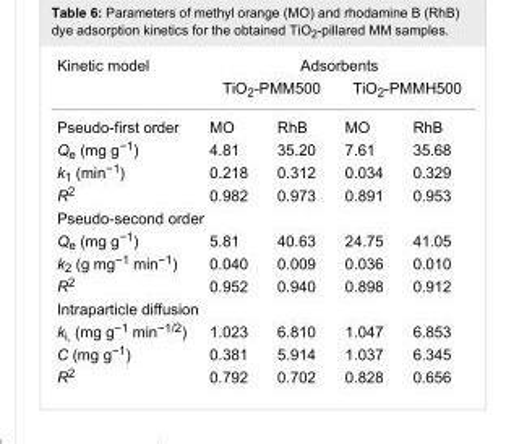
<table><tbody><tr><td rowspan="2">Kinetic model</td><td colspan="4">Adsorbents</td></tr><tr><td colspan="2">TiO<sub>2</sub>-PMM500</td><td colspan="2">TiO<sub>2</sub>-PMMН500</td></tr><tr><td>Pseudo-first order</td><td>MO</td><td>RhB</td><td>MO</td><td>RhB</td></tr><tr><td>Q<sub>e</sub> (mg g<sup>−1</sup>)</td><td>4.81</td><td>35.20</td><td>7.61</td><td>35.68</td></tr><tr><td>k<sub>1</sub> (min<sup>−1</sup>)</td><td>0.218</td><td>0.312</td><td>0.034</td><td>0.329</td></tr><tr><td>R<sup>2</sup></td><td>0.982</td><td>0.973</td><td>0.891</td><td>0.953</td></tr><tr><td colspan="5">Pseudo-second order</td></tr><tr><td>Q<sub>e</sub> (mg g<sup>−1</sup>)</td><td>5.81</td><td>40.63</td><td>24.75</td><td>41.05</td></tr><tr><td>k<sub>2</sub> (g mg<sup>−1</sup> min<sup>−1</sup>)</td><td>0.040</td><td>0.009</td><td>0.036</td><td>0.010</td></tr><tr><td>R<sup>2</sup></td><td>0.952</td><td>0.940</td><td>0.898</td><td>0.912</td></tr><tr><td colspan="5">Intraparticle diffusion</td></tr><tr><td>k<sub>i,</sub> (mg g<sup>−1</sup> min<sup>−1/2</sup>)</td><td>1.023</td><td>6.810</td><td>1.047</td><td>6.853</td></tr><tr><td>C (mg g<sup>−1</sup>)</td><td>0.381</td><td>5.914</td><td>1.037</td><td>6.345</td></tr><tr><td>R<sup>2</sup></td><td>0.792</td><td>0.702</td><td>0.828</td><td>0.656</td></tr></tbody></table>